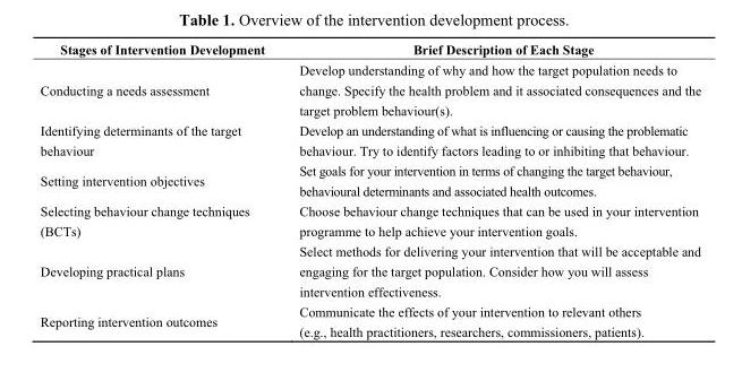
<table><thead><tr><td>Stages of Intervention Development</td><td>Brief Description of Each Stage</td></tr></thead><tbody><tr><td>Conducting a needs assessment</td><td>Develop understanding of why and how the target population needs to change. Specify the health problem and it associated consequences and the target problem behaviour(s).</td></tr><tr><td>Identifying determinants of the target behaviour</td><td>Develop an understanding of what is influencing or causing the problematic behaviour. Try to identify factors leading to or inhibiting that behaviour.</td></tr><tr><td>Setting intervention objectives</td><td>Set goals for your intervention in terms of changing the target behaviour, behavioural determinants and associated health outcomes.</td></tr><tr><td>Selecting behaviour change techniques (BCTs)</td><td>Choose behaviour change techniques that can be used in your intervention programme to help achieve your intervention goals.</td></tr><tr><td>Developing practical plans</td><td>Select methods for delivering your intervention that will be acceptable and engaging for the target population. Consider how you will assess intervention effectiveness.</td></tr><tr><td>Reporting intervention outcomes</td><td>Communicate the effects of your intervention to relevant others (e.g., health practitioners, researchers, commissioners, patients).</td></tr></tbody></table>